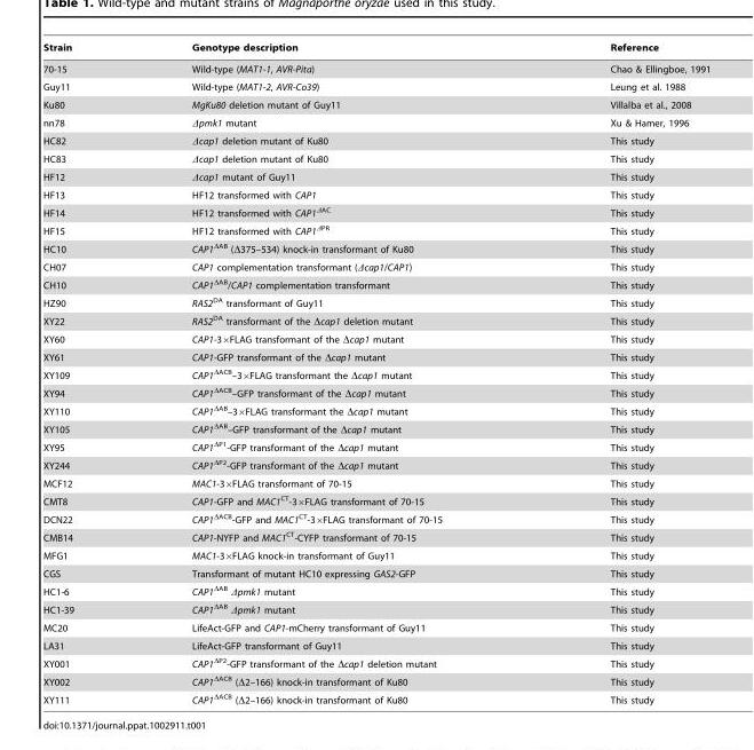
<table><thead><tr><td>Strain</td><td>Genotype description</td><td>Reference</td></tr></thead><tbody><tr><td>70-15</td><td>Wild-type (MAT1-1, AVR-Pita)</td><td>Chao &amp; Ellingboe, 1991</td></tr><tr><td>Guy11</td><td>Wild-type (MAT1-2, AVR-Co39)</td><td>Leung et al. 1988</td></tr><tr><td>Ku80</td><td>MgKu80 deletion mutant of Guy11</td><td>Villalba et al., 2008</td></tr><tr><td>nn78</td><td>Δpmk1 mutant</td><td>Xu &amp; Hamer, 1996</td></tr><tr><td>HC82</td><td>Δcap1 deletion mutant of Ku80</td><td>This study</td></tr><tr><td>HC83</td><td>Δcap1 deletion mutant of Ku80</td><td>This study</td></tr><tr><td>HF12</td><td>Δcap1 mutant of Guy11</td><td>This study</td></tr><tr><td>HF13</td><td>HF12 transformed with CAP1</td><td>This study</td></tr><tr><td>HF14</td><td>HF12 transformed with CAP1<sup>ΔAC</sup></td><td>This study</td></tr><tr><td>HF15</td><td>HF12 transformed with CAP1<sup>ΔPR</sup></td><td>This study</td></tr><tr><td>HC10</td><td>CAP1<sup>ΔAB</sup> (Δ375–534) knock-in transformant of Ku80</td><td>This study</td></tr><tr><td>CH07</td><td>CAP1 complementation transformant (Δcap1/CAP1)</td><td>This study</td></tr><tr><td>CH10</td><td>CAP1<sup>ΔAB</sup>/CAP1 complementation transformant</td><td>This study</td></tr><tr><td>HZ90</td><td>RAS2<sup>DA</sup> transformant of Guy11</td><td>This study</td></tr><tr><td>XY22</td><td>RAS2<sup>DA</sup> transformant of the Δcap1 deletion mutant</td><td>This study</td></tr><tr><td>XY60</td><td>CAP1-3×FLAG transformant of the Δcap1 mutant</td><td>This study</td></tr><tr><td>XY61</td><td>CAP1-GFP transformant of the Δcap1 mutant</td><td>This study</td></tr><tr><td>XY109</td><td>CAP1<sup>ΔACB</sup>–3×FLAG transformant the Δcap1 mutant</td><td>This study</td></tr><tr><td>XY94</td><td>CAP1<sup>ΔACB</sup>–GFP transformant of the Δcap1 mutant</td><td>This study</td></tr><tr><td>XY110</td><td>CAP1<sup>ΔAB</sup>–3×FLAG transformant the Δcap1 mutant</td><td>This study</td></tr><tr><td>XY105</td><td>CAP1<sup>ΔAB</sup>–GFP transformant of the Δcap1 mutant</td><td>This study</td></tr><tr><td>XY95</td><td>CAP1<sup>ΔP1</sup>-GFP transformant of the Δcap1 mutant</td><td>This study</td></tr><tr><td>XY244</td><td>CAP1<sup>ΔP2</sup>-GFP transformant of the Δcap1 mutant</td><td>This study</td></tr><tr><td>MCF12</td><td>MAC1-3×FLAG transformant of 70-15</td><td>This study</td></tr><tr><td>CMT8</td><td>CAP1-GFP and MAC1<sup>CT</sup>-3×FLAG transformant of 70-15</td><td>This study</td></tr><tr><td>DCN22</td><td>CAP1<sup>ΔACB</sup>-GFP and MAC1<sup>CT</sup>-3×FLAG transformant of 70-15</td><td>This study</td></tr><tr><td>CMB14</td><td>CAP1-NYFP and MAC1<sup>CT</sup>-CYFP transformant of 70-15</td><td>This study</td></tr><tr><td>MFG1</td><td>MAC1-3×FLAG knock-in transformant of Guy11</td><td>This study</td></tr><tr><td>CGS</td><td>Transformant of mutant HC10 expressing GAS2-GFP</td><td>This study</td></tr><tr><td>HC1-6</td><td>CAP1<sup>ΔAB</sup> Δpmk1 mutant</td><td>This study</td></tr><tr><td>HC1-39</td><td>CAP1<sup>ΔAB</sup> Δpmk1 mutant</td><td>This study</td></tr><tr><td>MC20</td><td>LifeAct-GFP and CAP1-mCherry transformant of Guy11</td><td>This study</td></tr><tr><td>LA31</td><td>LifeAct-GFP transformant of Guy11</td><td>This study</td></tr><tr><td>XY001</td><td>CAP1<sup>ΔP2</sup>-GFP transformant of the Δcap1 deletion mutant</td><td>This study</td></tr><tr><td>XY002</td><td>CAP1<sup>ΔACB</sup> (Δ2–166) knock-in transformant of Ku80</td><td>This study</td></tr><tr><td>XY111</td><td>CAP1<sup>ΔACB</sup> (Δ2–166) knock-in transformant of Ku80</td><td>This study</td></tr></tbody></table>